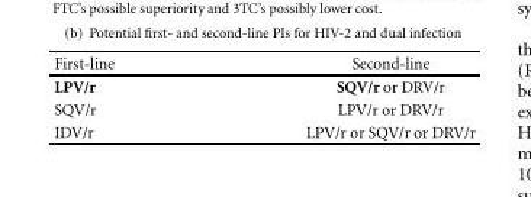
<table><thead><tr><td>First-line</td><td>Second-line</td></tr></thead><tbody><tr><td>LPV/r</td><td>SQV/r or DRV/r</td></tr><tr><td>SQV/r</td><td>LPV/r or DRV/r</td></tr><tr><td>IDV/r</td><td>LPV/r or SQV/r or DRV/r</td></tr></tbody></table>